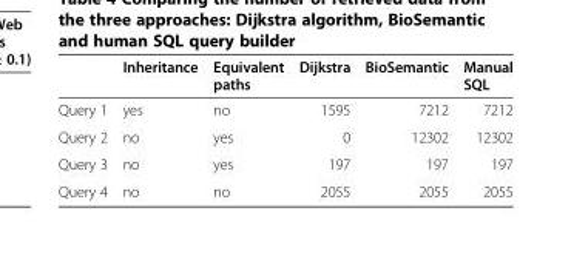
<table><thead><tr><td></td><td>Inheritance</td><td>Equivalent paths</td><td>Dijkstra</td><td>BioSemantic</td><td>Manual SQL</td></tr></thead><tbody><tr><td>Query 1</td><td>yes</td><td>no</td><td>1595</td><td>7212</td><td>7212</td></tr><tr><td>Query 2</td><td>no</td><td>yes</td><td>0</td><td>12302</td><td>12302</td></tr><tr><td>Query 3</td><td>no</td><td>yes</td><td>197</td><td>197</td><td>197</td></tr><tr><td>Query 4</td><td>no</td><td>no</td><td>2055</td><td>2055</td><td>2055</td></tr></tbody></table>